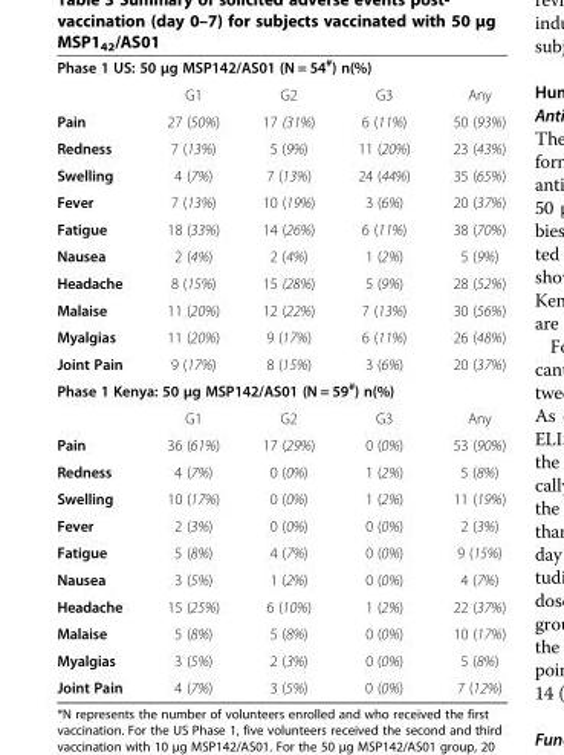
<table><tbody><tr><td colspan="5">Phase 1 US: 50 μg MSP142/AS01 (N = 54<sup>#</sup>) n(%)</td></tr><tr><td></td><td>G1</td><td>G2</td><td>G3</td><td>Any</td></tr><tr><td>Pain</td><td>27 (50%)</td><td>17 (31%)</td><td>6 (11%)</td><td>50 (93%)</td></tr><tr><td>Redness</td><td>7 (13%)</td><td>5 (9%)</td><td>11 (20%)</td><td>23 (43%)</td></tr><tr><td>Swelling</td><td>4 (7%)</td><td>7 (13%)</td><td>24 (44%)</td><td>35 (65%)</td></tr><tr><td>Fever</td><td>7 (13%)</td><td>10 (19%)</td><td>3 (6%)</td><td>20 (37%)</td></tr><tr><td>Fatigue</td><td>18 (33%)</td><td>14 (26%)</td><td>6 (11%)</td><td>38 (70%)</td></tr><tr><td>Nausea</td><td>2 (4%)</td><td>2 (4%)</td><td>1 (2%)</td><td>5 (9%)</td></tr><tr><td>Headache</td><td>8 (15%)</td><td>15 (28%)</td><td>5 (9%)</td><td>28 (52%)</td></tr><tr><td>Malaise</td><td>11 (20%)</td><td>12 (22%)</td><td>7 (13%)</td><td>30 (56%)</td></tr><tr><td>Myalgias</td><td>11 (20%)</td><td>9 (17%)</td><td>6 (11%)</td><td>26 (48%)</td></tr><tr><td>Joint Pain</td><td>9 (17%)</td><td>8 (15%)</td><td>3 (6%)</td><td>20 (37%)</td></tr><tr><td colspan="5">Phase 1 Kenya: 50 μg MSP142/AS01 (N = 59<sup>#</sup>) n(%)</td></tr><tr><td></td><td>G1</td><td>G2</td><td>G3</td><td>Any</td></tr><tr><td>Pain</td><td>36 (61%)</td><td>17 (29%)</td><td>0 (0%)</td><td>53 (90%)</td></tr><tr><td>Redness</td><td>4 (7%)</td><td>0 (0%)</td><td>1 (2%)</td><td>5 (8%)</td></tr><tr><td>Swelling</td><td>10 (17%)</td><td>0 (0%)</td><td>1 (2%)</td><td>11 (19%)</td></tr><tr><td>Fever</td><td>2 (3%)</td><td>0 (0%)</td><td>0 (0%)</td><td>2 (3%)</td></tr><tr><td>Fatigue</td><td>5 (8%)</td><td>4 (7%)</td><td>0 (0%)</td><td>9 (15%)</td></tr><tr><td>Nausea</td><td>3 (5%)</td><td>1 (2%)</td><td>0 (0%)</td><td>4 (7%)</td></tr><tr><td>Headache</td><td>15 (25%)</td><td>6 (10%)</td><td>1 (2%)</td><td>22 (37%)</td></tr><tr><td>Malaise</td><td>5 (8%)</td><td>5 (8%)</td><td>0 (0%)</td><td>10 (17%)</td></tr><tr><td>Myalgias</td><td>3 (5%)</td><td>2 (3%)</td><td>0 (0%)</td><td>5 (8%)</td></tr><tr><td>Joint Pain</td><td>4 (7%)</td><td>3 (5%)</td><td>0 (0%)</td><td>7 (12%)</td></tr></tbody></table>